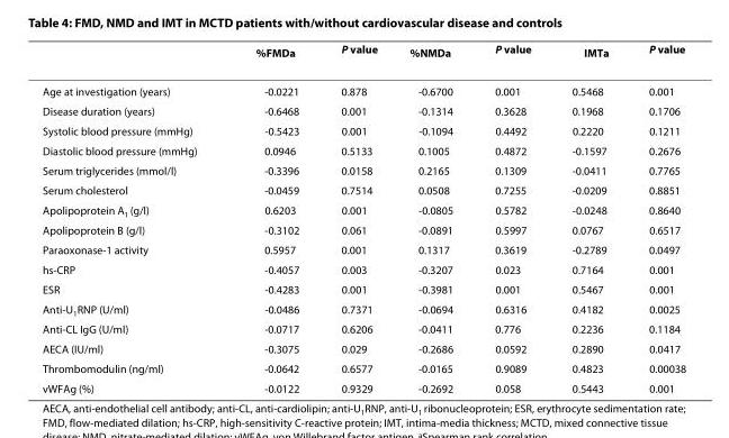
<table><thead><tr><td></td><td>%FMD<sup>a</sup></td><td>P value</td><td>%NMD<sup>a</sup></td><td>P value</td><td>IMT<sup>a</sup></td><td>P value</td></tr></thead><tbody><tr><td>Age at investigation (years)</td><td>-0.0221</td><td>0.878</td><td>-0.6700</td><td>0.001</td><td>0.5468</td><td>0.001</td></tr><tr><td>Disease duration (years)</td><td>-0.6468</td><td>0.001</td><td>-0.1314</td><td>0.3628</td><td>0.1968</td><td>0.1706</td></tr><tr><td>Systolic blood pressure (mmHg)</td><td>-0.5423</td><td>0.001</td><td>-0.1094</td><td>0.4492</td><td>0.2220</td><td>0.1211</td></tr><tr><td>Diastolic blood pressure (mmHg)</td><td>0.0946</td><td>0.5133</td><td>0.1005</td><td>0.4872</td><td>-0.1597</td><td>0.2676</td></tr><tr><td>Serum triglycerides (mmol/l)</td><td>-0.3396</td><td>0.0158</td><td>0.2165</td><td>0.1309</td><td>-0.0411</td><td>0.7765</td></tr><tr><td>Serum cholesterol</td><td>-0.0459</td><td>0.7514</td><td>0.0508</td><td>0.7255</td><td>-0.0209</td><td>0.8851</td></tr><tr><td>Apolipoprotein A<sub>1</sub> (g/l)</td><td>0.6203</td><td>0.001</td><td>-0.0805</td><td>0.5782</td><td>-0.0248</td><td>0.8640</td></tr><tr><td>Apolipoprotein B (g/l)</td><td>-0.3102</td><td>0.061</td><td>-0.0891</td><td>0.5997</td><td>0.0767</td><td>0.6517</td></tr><tr><td>Paraoxonase-1 activity</td><td>0.5957</td><td>0.001</td><td>0.1317</td><td>0.3619</td><td>-0.2789</td><td>0.0497</td></tr><tr><td>hs-CRP</td><td>-0.4057</td><td>0.003</td><td>-0.3207</td><td>0.023</td><td>0.7164</td><td>0.001</td></tr><tr><td>ESR</td><td>-0.4283</td><td>0.001</td><td>-0.3981</td><td>0.001</td><td>0.5467</td><td>0.001</td></tr><tr><td>Anti-U<sub>1</sub>RNP (U/ml)</td><td>-0.0486</td><td>0.7371</td><td>-0.0694</td><td>0.6316</td><td>0.4182</td><td>0.0025</td></tr><tr><td>Anti-CL IgG (U/ml)</td><td>-0.0717</td><td>0.6206</td><td>-0.0411</td><td>0.776</td><td>0.2236</td><td>0.1184</td></tr><tr><td>AECA (IU/ml)</td><td>-0.3075</td><td>0.029</td><td>-0.2686</td><td>0.0592</td><td>0.2890</td><td>0.0417</td></tr><tr><td>Thrombomodulin (ng/ml)</td><td>-0.0642</td><td>0.6577</td><td>-0.0165</td><td>0.9089</td><td>0.4823</td><td>0.00038</td></tr><tr><td>vWFAg (%)</td><td>-0.0122</td><td>0.9329</td><td>-0.2692</td><td>0.058</td><td>0.5443</td><td>0.001</td></tr></tbody></table>